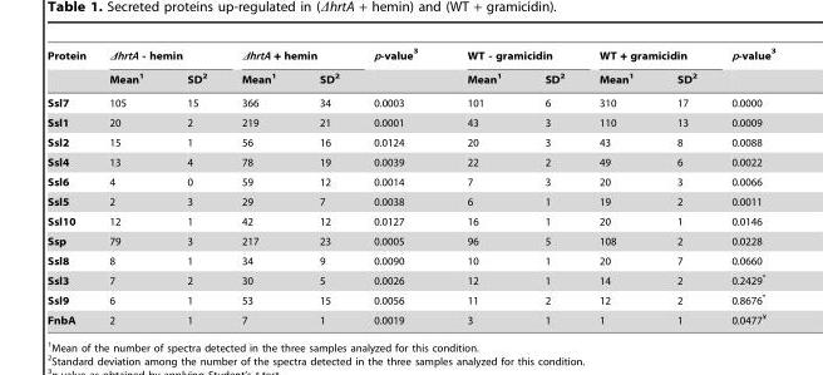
<table><thead><tr><td rowspan="2">Protein</td><td colspan="2">ΔhrtA - hemin</td><td colspan="2">ΔhrtA + hemin</td><td rowspan="2">p-value <sup>3</sup></td><td colspan="2">WT - gramicidin</td><td colspan="2">WT + gramicidin</td><td rowspan="2">p-value <sup>3</sup></td></tr><tr><td>Mean<sup>1</sup></td><td>SD<sup>2</sup></td><td>Mean<sup>1</sup></td><td>SD<sup>2</sup></td><td>Mean<sup>1</sup></td><td>SD<sup>2</sup></td><td>Mean<sup>1</sup></td><td>SD<sup>2</sup></td></tr></thead><tbody><tr><td>Ssl7</td><td>105</td><td>15</td><td>366</td><td>34</td><td>0.0003</td><td>101</td><td>6</td><td>310</td><td>17</td><td>0.0000</td></tr><tr><td>Ssl1</td><td>20</td><td>2</td><td>219</td><td>21</td><td>0.0001</td><td>43</td><td>3</td><td>110</td><td>13</td><td>0.0009</td></tr><tr><td>Ssl2</td><td>15</td><td>1</td><td>56</td><td>16</td><td>0.0124</td><td>20</td><td>3</td><td>43</td><td>8</td><td>0.0088</td></tr><tr><td>Ssl4</td><td>13</td><td>4</td><td>78</td><td>19</td><td>0.0039</td><td>22</td><td>2</td><td>49</td><td>6</td><td>0.0022</td></tr><tr><td>Ssl6</td><td>4</td><td>0</td><td>59</td><td>12</td><td>0.0014</td><td>7</td><td>3</td><td>20</td><td>3</td><td>0.0066</td></tr><tr><td>Ssl5</td><td>2</td><td>3</td><td>29</td><td>7</td><td>0.0038</td><td>6</td><td>1</td><td>19</td><td>2</td><td>0.0011</td></tr><tr><td>Ssl10</td><td>12</td><td>1</td><td>42</td><td>12</td><td>0.0127</td><td>16</td><td>1</td><td>20</td><td>1</td><td>0.0146</td></tr><tr><td>Ssp</td><td>79</td><td>3</td><td>217</td><td>23</td><td>0.0005</td><td>96</td><td>5</td><td>108</td><td>2</td><td>0.0228</td></tr><tr><td>Ssl8</td><td>8</td><td>1</td><td>34</td><td>9</td><td>0.0090</td><td>10</td><td>1</td><td>20</td><td>7</td><td>0.0660</td></tr><tr><td>Ssl3</td><td>7</td><td>2</td><td>30</td><td>5</td><td>0.0026</td><td>12</td><td>1</td><td>14</td><td>2</td><td>0.2429*</td></tr><tr><td>Ssl9</td><td>6</td><td>1</td><td>53</td><td>15</td><td>0.0056</td><td>11</td><td>2</td><td>12</td><td>2</td><td>0.8676*</td></tr><tr><td>FnbA</td><td>2</td><td>1</td><td>7</td><td>1</td><td>0.0019</td><td>3</td><td>1</td><td>1</td><td>1</td><td>0.0477¥</td></tr></tbody></table>